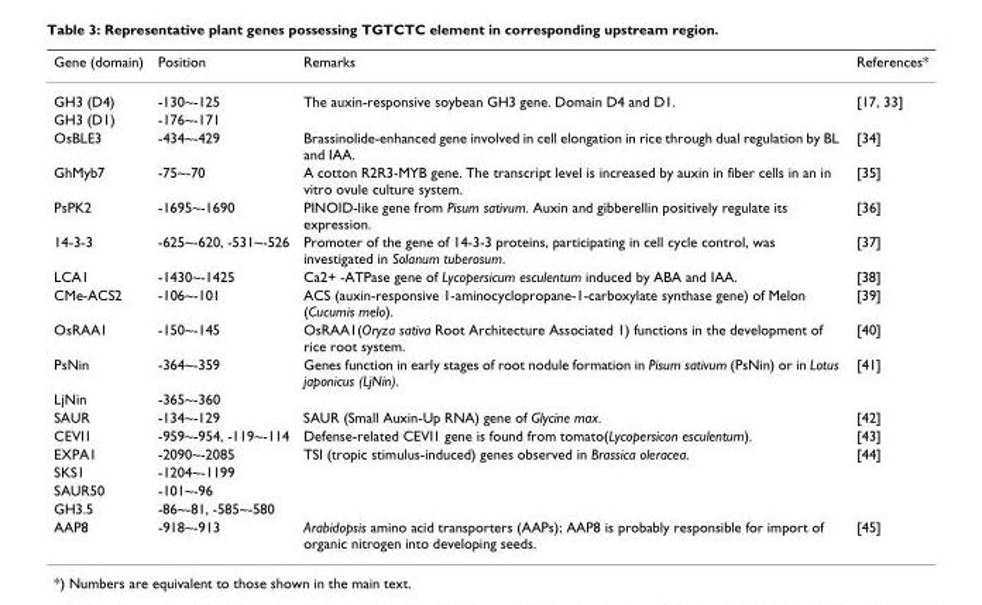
<table><thead><tr><td>Gene (domain)</td><td>Position</td><td>Remarks</td><td>References*</td></tr></thead><tbody><tr><td>GH3 (D4)</td><td>-130~-125</td><td>The auxin-responsive soybean GH3 gene. Domain D4 and D1.</td><td>[17, 33]</td></tr><tr><td>GH3 (D1)</td><td>-176~-171</td><td></td><td></td></tr><tr><td>OsBLE3</td><td>-434~-429</td><td>Brassinolide-enhanced gene involved in cell elongation in rice through dual regulation by BL and IAA.</td><td>[34]</td></tr><tr><td>GhMyb7</td><td>-75~-70</td><td>A cotton R2R3-MYB gene. The transcript level is increased by auxin in fiber cells in an in vitro ovule culture system.</td><td>[35]</td></tr><tr><td>PsPK2</td><td>-1695~-1690</td><td>PINOID-like gene from Pisum sativum. Auxin and gibberellin positively regulate its expression.</td><td>[36]</td></tr><tr><td>14-3-3</td><td>-625~-620, -531~-526</td><td>Promoter of the gene of 14-3-3 proteins, participating in cell cycle control, was investigated in Solanum tuberosum.</td><td>[37]</td></tr><tr><td>LCA1</td><td>-1430~-1425</td><td>Ca2+ -ATPase gene of Lycopersicum esculentum induced by ABA and IAA.</td><td>[38]</td></tr><tr><td>CMe-ACS2</td><td>-106~-101</td><td>ACS (auxin-responsive 1-aminocyclopropane-1-carboxylate synthase gene) of Melon (Cucumis melo).</td><td>[39]</td></tr><tr><td>OsRAA1</td><td>-150~-145</td><td>OsRAA1(Oryza sativa Root Architecture Associated 1) functions in the development of rice root system.</td><td>[40]</td></tr><tr><td>PsNin</td><td>-364~-359</td><td>Genes function in early stages of root nodule formation in Pisum sativum (PsNin) or in Lotus japonicus (LjNin).</td><td>[41]</td></tr><tr><td>LjNin</td><td>-365~-360</td><td></td><td></td></tr><tr><td>SAUR</td><td>-134~-129</td><td>SAUR (Small Auxin-Up RNA) gene of Glycine max.</td><td>[42]</td></tr><tr><td>CEVI1</td><td>-959~-954, -119~-114</td><td>Defense-related CEVI1 gene is found from tomato(Lycopersicon esculentum).</td><td>[43]</td></tr><tr><td>EXPA1</td><td>-2090~-2085</td><td>TSI (tropic stimulus-induced) genes observed in Brassica oleracea.</td><td>[44]</td></tr><tr><td>SKS1</td><td>-1204~-1199</td><td></td><td></td></tr><tr><td>SAUR50</td><td>-101~-96</td><td></td><td></td></tr><tr><td>GH3.5</td><td>-86~-81, -585~-580</td><td></td><td></td></tr><tr><td>AAP8</td><td>-918~-913</td><td>Arabidopsis amino acid transporters (AAPs); AAP8 is probably responsible for import of organic nitrogen into developing seeds.</td><td>[45]</td></tr></tbody></table>